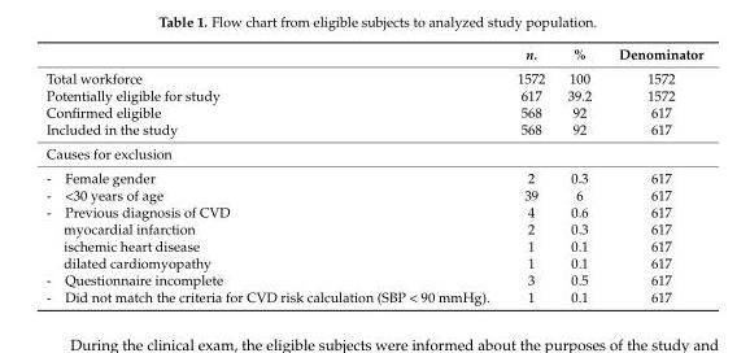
<table><thead><tr><td></td><td>n.</td><td>%</td><td>Denominator</td></tr></thead><tbody><tr><td>Total workforce</td><td>1572</td><td>100</td><td>1572</td></tr><tr><td>Potentially eligible for study</td><td>617</td><td>39.2</td><td>1572</td></tr><tr><td>Confirmed eligible</td><td>568</td><td>92</td><td>617</td></tr><tr><td>Included in the study</td><td>568</td><td>92</td><td>617</td></tr><tr><td colspan="4">Causes for exclusion</td></tr><tr><td>- Female gender</td><td>2</td><td>0.3</td><td>617</td></tr><tr><td>- &lt;30 years of age</td><td>39</td><td>6</td><td>617</td></tr><tr><td>- Previous diagnosis of CVD</td><td>4</td><td>0.6</td><td>617</td></tr><tr><td>myocardial infarction</td><td>2</td><td>0.3</td><td>617</td></tr><tr><td>ischemic heart disease</td><td>1</td><td>0.1</td><td>617</td></tr><tr><td>dilated cardiomyopathy</td><td>1</td><td>0.1</td><td>617</td></tr><tr><td>- Questionnaire incomplete</td><td>3</td><td>0.5</td><td>617</td></tr><tr><td>- Did not match the criteria for CVD risk calculation (SBP &lt; 90 mmHg).</td><td>1</td><td>0.1</td><td>617</td></tr></tbody></table>